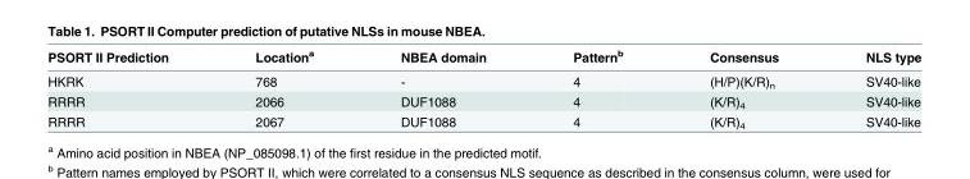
<table><thead><tr><td>PSORT II Prediction</td><td>Location<sup>a</sup></td><td>NBEA domain</td><td>Pattern<sup>b</sup></td><td>Consensus</td><td>NLS type</td></tr></thead><tbody><tr><td>HKRK</td><td>768</td><td>-</td><td>4</td><td>(H/P)(K/R)<sub>n</sub></td><td>SV40-like</td></tr><tr><td>RRRR</td><td>2066</td><td>DUF1088</td><td>4</td><td>(K/R)<sub>4</sub></td><td>SV40-like</td></tr><tr><td>RRRR</td><td>2067</td><td>DUF1088</td><td>4</td><td>(K/R)<sub>4</sub></td><td>SV40-like</td></tr></tbody></table>